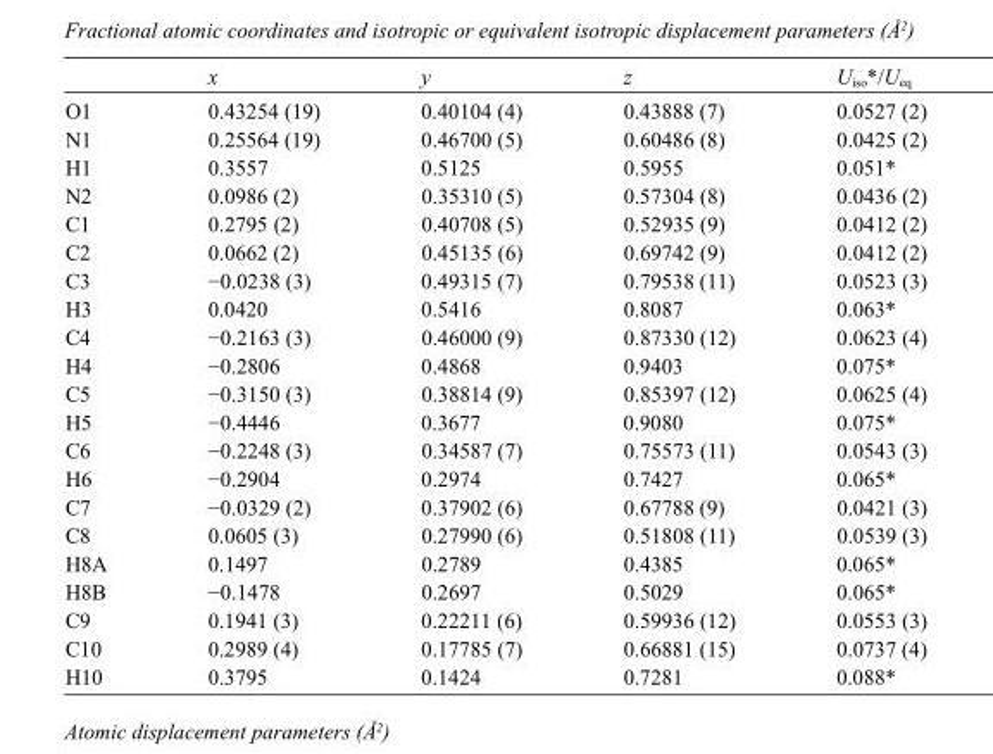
<table><thead><tr><td></td><td>x</td><td>y</td><td>z</td><td>U<sub>iso</sub>*/U<sub>eq</sub></td></tr></thead><tbody><tr><td>O1</td><td>0.43254 (19)</td><td>0.40104 (4)</td><td>0.43888 (7)</td><td>0.0527 (2)</td></tr><tr><td>N1</td><td>0.25564 (19)</td><td>0.46700 (5)</td><td>0.60486 (8)</td><td>0.0425 (2)</td></tr><tr><td>H1</td><td>0.3557</td><td>0.5125</td><td>0.5955</td><td>0.051*</td></tr><tr><td>N2</td><td>0.0986 (2)</td><td>0.35310 (5)</td><td>0.57304 (8)</td><td>0.0436 (2)</td></tr><tr><td>C1</td><td>0.2795 (2)</td><td>0.40708 (5)</td><td>0.52935 (9)</td><td>0.0412 (2)</td></tr><tr><td>C2</td><td>0.0662 (2)</td><td>0.45135 (6)</td><td>0.69742 (9)</td><td>0.0412 (2)</td></tr><tr><td>C3</td><td>−0.0238 (3)</td><td>0.49315 (7)</td><td>0.79538 (11)</td><td>0.0523 (3)</td></tr><tr><td>H3</td><td>0.0420</td><td>0.5416</td><td>0.8087</td><td>0.063*</td></tr><tr><td>C4</td><td>−0.2163 (3)</td><td>0.46000 (9)</td><td>0.87330 (12)</td><td>0.0623 (4)</td></tr><tr><td>H4</td><td>−0.2806</td><td>0.4868</td><td>0.9403</td><td>0.075*</td></tr><tr><td>C5</td><td>−0.3150 (3)</td><td>0.38814 (9)</td><td>0.85397 (12)</td><td>0.0625 (4)</td></tr><tr><td>H5</td><td>−0.4446</td><td>0.3677</td><td>0.9080</td><td>0.075*</td></tr><tr><td>C6</td><td>−0.2248 (3)</td><td>0.34587 (7)</td><td>0.75573 (11)</td><td>0.0543 (3)</td></tr><tr><td>H6</td><td>−0.2904</td><td>0.2974</td><td>0.7427</td><td>0.065*</td></tr><tr><td>C7</td><td>−0.0329 (2)</td><td>0.37902 (6)</td><td>0.67788 (9)</td><td>0.0421 (3)</td></tr><tr><td>C8</td><td>0.0605 (3)</td><td>0.27990 (6)</td><td>0.51808 (11)</td><td>0.0539 (3)</td></tr><tr><td>H8A</td><td>0.1497</td><td>0.2789</td><td>0.4385</td><td>0.065*</td></tr><tr><td>H8B</td><td>−0.1478</td><td>0.2697</td><td>0.5029</td><td>0.065*</td></tr><tr><td>C9</td><td>0.1941 (3)</td><td>0.22211 (6)</td><td>0.59936 (12)</td><td>0.0553 (3)</td></tr><tr><td>C10</td><td>0.2989 (4)</td><td>0.17785 (7)</td><td>0.66881 (15)</td><td>0.0737 (4)</td></tr><tr><td>H10</td><td>0.3795</td><td>0.1424</td><td>0.7281</td><td>0.088*</td></tr></tbody></table>